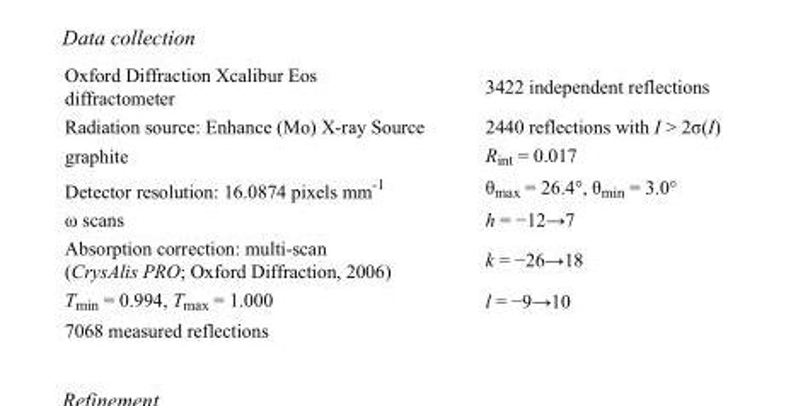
<table><tbody><tr><td>Oxford Diffraction Xcalibur Eos diffractometer</td><td>3422 independent reflections</td></tr><tr><td>Radiation source: Enhance (Mo) X-ray Source</td><td>2440 reflections with I &gt; 2σ(I)</td></tr><tr><td>graphite</td><td>R<sub>int</sub> = 0.017</td></tr><tr><td>Detector resolution: 16.0874 pixels mm<sup>-1</sup></td><td>θ<sub>max</sub> = 26.4°, θ<sub>min</sub> = 3.0°</td></tr><tr><td>ω scans</td><td>h = −12→7</td></tr><tr><td>Absorption correction: multi-scan (CrysAlis PRO; Oxford Diffraction, 2006)</td><td>k = −26→18</td></tr><tr><td>T<sub>min</sub> = 0.994, T<sub>max</sub> = 1.000</td><td>l = −9→10</td></tr><tr><td>7068 measured reflections</td><td></td></tr></tbody></table>